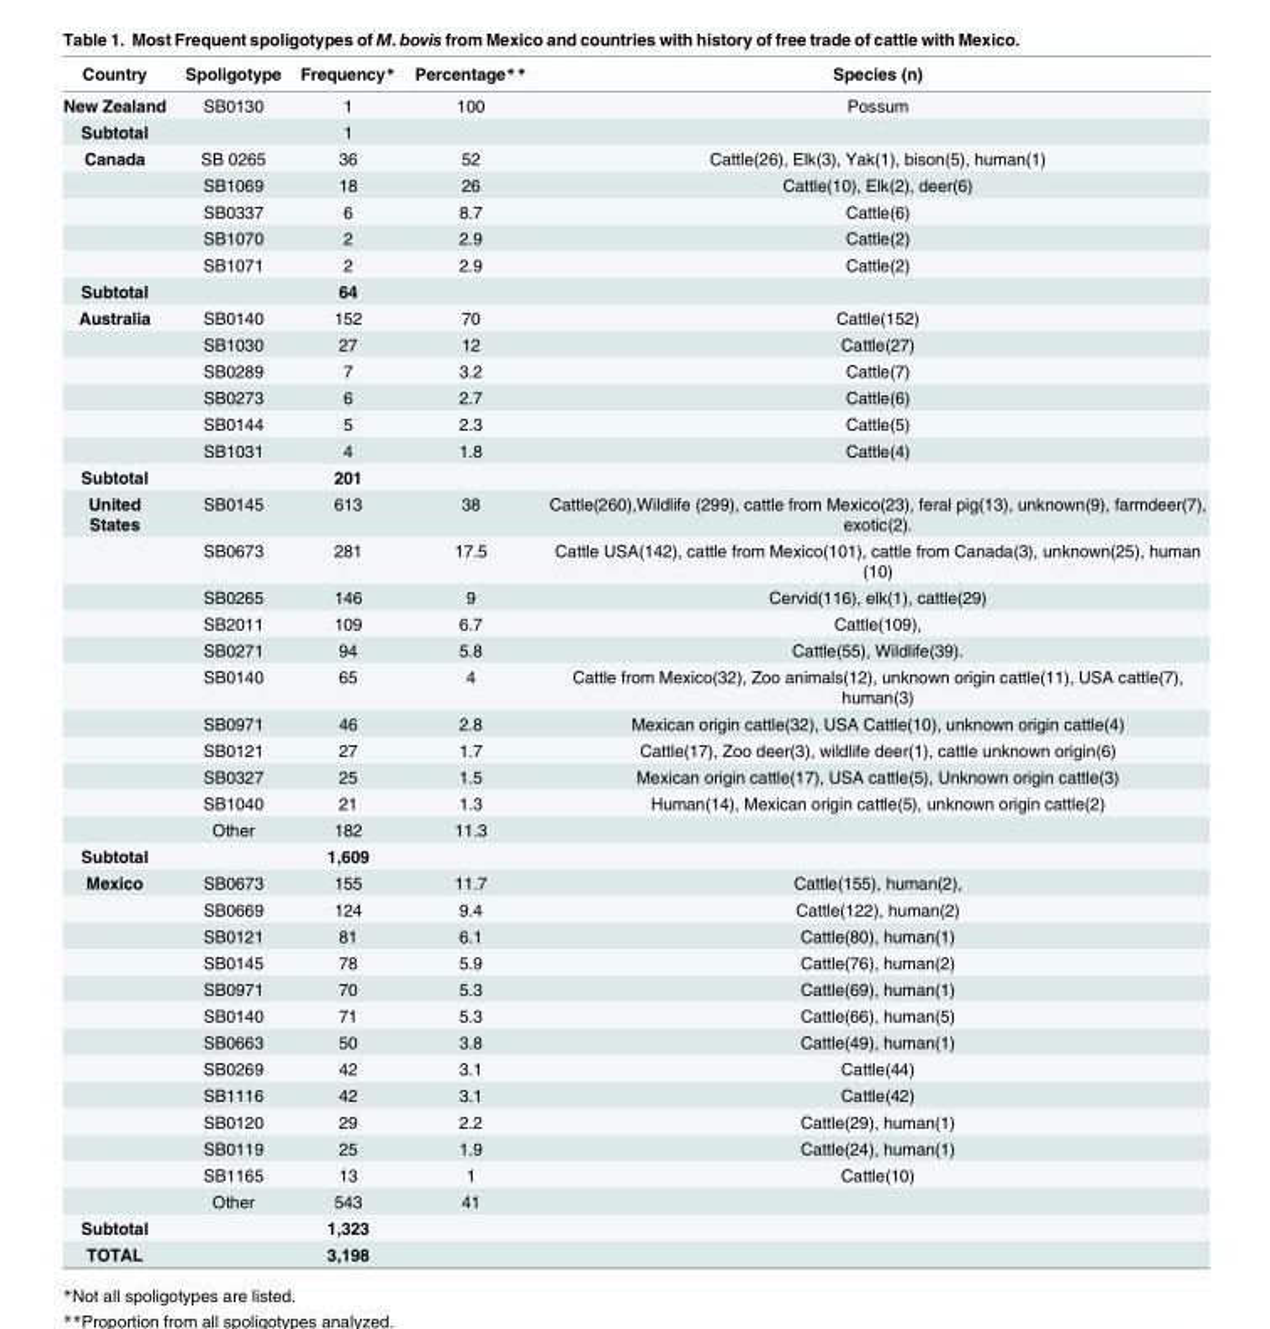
<table><thead><tr><td>Country</td><td>Spoligotype</td><td>Frequency*</td><td>Percentage**</td><td>Species (n)</td></tr></thead><tbody><tr><td>New Zealand</td><td>SB0130</td><td>1</td><td>100</td><td>Possum</td></tr><tr><td>Subtotal</td><td></td><td>1</td><td></td><td></td></tr><tr><td rowspan="5">Canada</td><td>SB 0265</td><td>36</td><td>52</td><td>Cattle(26), Elk(3), Yak(1), bison(5), human(1)</td></tr><tr><td>SB1069</td><td>18</td><td>26</td><td>Cattle(10), Elk(2), deer(6)</td></tr><tr><td>SB0337</td><td>6</td><td>8.7</td><td>Cattle(6)</td></tr><tr><td>SB1070</td><td>2</td><td>2.9</td><td>Cattle(2)</td></tr><tr><td>SB1071</td><td>2</td><td>2.9</td><td>Cattle(2)</td></tr><tr><td>Subtotal</td><td></td><td>64</td><td></td><td></td></tr><tr><td rowspan="6">Australia</td><td>SB0140</td><td>152</td><td>70</td><td>Cattle(152)</td></tr><tr><td>SB1030</td><td>27</td><td>12</td><td>Cattle(27)</td></tr><tr><td>SB0289</td><td>7</td><td>3.2</td><td>Cattle(7)</td></tr><tr><td>SB0273</td><td>6</td><td>2.7</td><td>Cattle(6)</td></tr><tr><td>SB0144</td><td>5</td><td>2.3</td><td>Cattle(5)</td></tr><tr><td>SB1031</td><td>4</td><td>1.8</td><td>Cattle(4)</td></tr><tr><td>Subtotal</td><td></td><td>201</td><td></td><td></td></tr><tr><td rowspan="11">United States</td><td>SB0145</td><td>613</td><td>38</td><td>Cattle(260),Wildlife (299), cattle from Mexico(23), feral pig(13), unknown(9), farmdeer(7), exotic(2).</td></tr><tr><td>SB0673</td><td>281</td><td>17.5</td><td>Cattle USA(142), cattle from Mexico(101), cattle from Canada(3), unknown(25), human (10)</td></tr><tr><td>SB0265</td><td>146</td><td>9</td><td>Cervid(116), elk(1), cattle(29)</td></tr><tr><td>SB2011</td><td>109</td><td>6.7</td><td>Cattle(109),</td></tr><tr><td>SB0271</td><td>94</td><td>5.8</td><td>Cattle(55), Wildlife(39).</td></tr><tr><td>SB0140</td><td>65</td><td>4</td><td>Cattle from Mexico(32), Zoo animals(12), unknown origin cattle(11), USA cattle(7), human(3)</td></tr><tr><td>SB0971</td><td>46</td><td>2.8</td><td>Mexican origin cattle(32), USA Cattle(10), unknown origin cattle(4)</td></tr><tr><td>SB0121</td><td>27</td><td>1.7</td><td>Cattle(17), Zoo deer(3), wildlife deer(1), cattle unknown origin(6)</td></tr><tr><td>SB0327</td><td>25</td><td>1.5</td><td>Mexican origin cattle(17), USA cattle(5), Unknown origin cattle(3)</td></tr><tr><td>SB1040</td><td>21</td><td>1.3</td><td>Human(14), Mexican origin cattle(5), unknown origin cattle(2)</td></tr><tr><td>Other</td><td>182</td><td>11.3</td><td></td></tr><tr><td>Subtotal</td><td></td><td>1,609</td><td></td><td></td></tr><tr><td rowspan="13">Mexico</td><td>SB0673</td><td>155</td><td>11.7</td><td>Cattle(155), human(2),</td></tr><tr><td>SB0669</td><td>124</td><td>9.4</td><td>Cattle(122), human(2)</td></tr><tr><td>SB0121</td><td>81</td><td>6.1</td><td>Cattle(80), human(1)</td></tr><tr><td>SB0145</td><td>78</td><td>5.9</td><td>Cattle(76), human(2)</td></tr><tr><td>SB0971</td><td>70</td><td>5.3</td><td>Cattle(69), human(1)</td></tr><tr><td>SB0140</td><td>71</td><td>5.3</td><td>Cattle(66), human(5)</td></tr><tr><td>SB0663</td><td>50</td><td>3.8</td><td>Cattle(49), human(1)</td></tr><tr><td>SB0269</td><td>42</td><td>3.1</td><td>Cattle(44)</td></tr><tr><td>SB1116</td><td>42</td><td>3.1</td><td>Cattle(42)</td></tr><tr><td>SB0120</td><td>29</td><td>2.2</td><td>Cattle(29), human(1)</td></tr><tr><td>SB0119</td><td>25</td><td>1.9</td><td>Cattle(24), human(1)</td></tr><tr><td>SB1165</td><td>13</td><td>1</td><td>Cattle(10)</td></tr><tr><td>Other</td><td>543</td><td>41</td><td></td></tr><tr><td>Subtotal</td><td></td><td>1,323</td><td></td><td></td></tr><tr><td>TOTAL</td><td></td><td>3,198</td><td></td><td></td></tr></tbody></table>